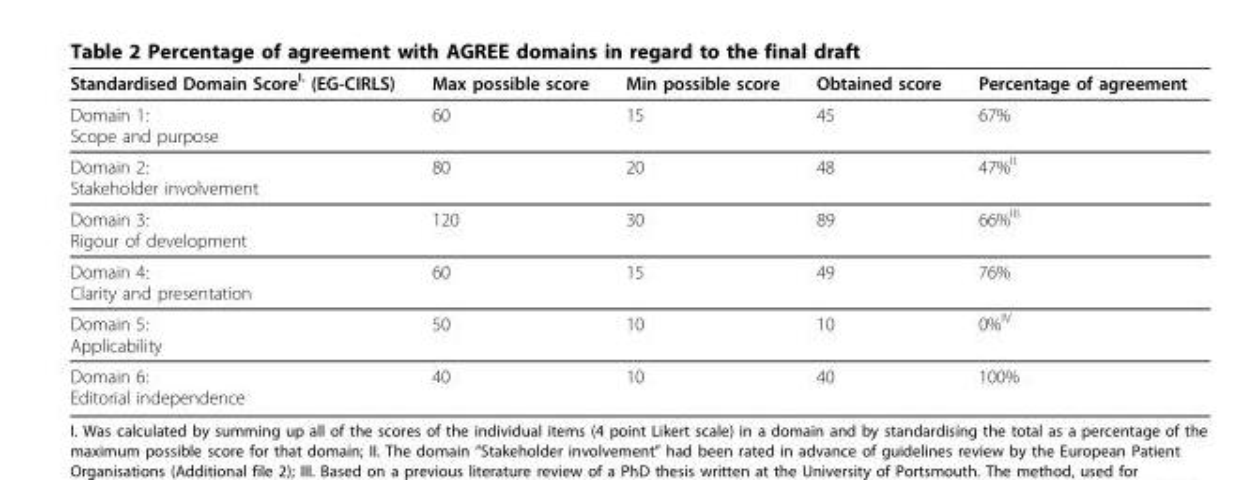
<table><thead><tr><td>Standardised Domain Score<sup>I.</sup> (EG-CIRLS)</td><td>Max possible score</td><td>Min possible score</td><td>Obtained score</td><td>Percentage of agreement</td></tr></thead><tbody><tr><td>Domain 1: Scope and purpose</td><td>60</td><td>15</td><td>45</td><td>67%</td></tr><tr><td>Domain 2: Stakeholder involvement</td><td>80</td><td>20</td><td>48</td><td>47%<sup>II.</sup></td></tr><tr><td>Domain 3: Rigour of development</td><td>120</td><td>30</td><td>89</td><td>66%<sup>III.</sup></td></tr><tr><td>Domain 4: Clarity and presentation</td><td>60</td><td>15</td><td>49</td><td>76%</td></tr><tr><td>Domain 5: Applicability</td><td>50</td><td>10</td><td>10</td><td>0%<sup>IV.</sup></td></tr><tr><td>Domain 6: Editorial independence</td><td>40</td><td>10</td><td>40</td><td>100%</td></tr></tbody></table>